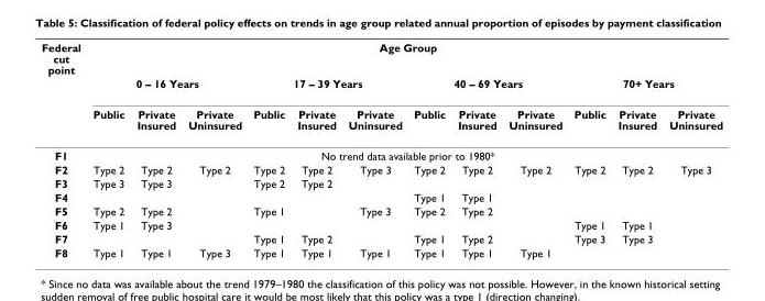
<table><thead><tr><td rowspan="3">Federal cut point</td><td colspan="12">Age Group</td></tr><tr><td colspan="3">0 – 16 Years</td><td colspan="3">17 – 39 Years</td><td colspan="3">40 – 69 Years</td><td colspan="3">70+ Years</td></tr><tr><td>Public</td><td>Private Insured</td><td>Private Uninsured</td><td>Public</td><td>Private Insured</td><td>Private Uninsured</td><td>Public</td><td>Private Insured</td><td>Private Uninsured</td><td>Public</td><td>Private Insured</td><td>Private Uninsured</td></tr></thead><tbody><tr><td>F1</td><td colspan="12">No trend data available prior to 1980*</td></tr><tr><td>F2</td><td>Type 2</td><td>Type 2</td><td>Type 2</td><td>Type 2</td><td>Type 2</td><td>Type 3</td><td>Type 2</td><td>Type 2</td><td>Type 2</td><td>Type 2</td><td>Type 2</td><td>Type 3</td></tr><tr><td>F3</td><td>Type 3</td><td>Type 3</td><td></td><td>Type 2</td><td>Type 2</td><td></td><td></td><td></td><td></td><td></td><td></td><td></td></tr><tr><td>F4</td><td></td><td></td><td></td><td></td><td></td><td></td><td>Type 1</td><td>Type 1</td><td></td><td></td><td></td><td></td></tr><tr><td>F5</td><td>Type 2</td><td>Type 2</td><td></td><td>Type 1</td><td></td><td>Type 3</td><td>Type 2</td><td>Type 2</td><td></td><td></td><td></td><td></td></tr><tr><td>F6</td><td>Type 1</td><td>Type 3</td><td></td><td></td><td></td><td></td><td></td><td></td><td></td><td>Type 1</td><td>Type 1</td><td></td></tr><tr><td>F7</td><td></td><td></td><td></td><td>Type 1</td><td>Type 2</td><td></td><td>Type 1</td><td>Type 2</td><td></td><td>Type 3</td><td>Type 3</td><td></td></tr><tr><td>F8</td><td>Type 1</td><td>Type 1</td><td>Type 3</td><td>Type 1</td><td>Type 1</td><td>Type 1</td><td>Type 1</td><td>Type 1</td><td>Type 1</td><td></td><td></td><td></td></tr></tbody></table>